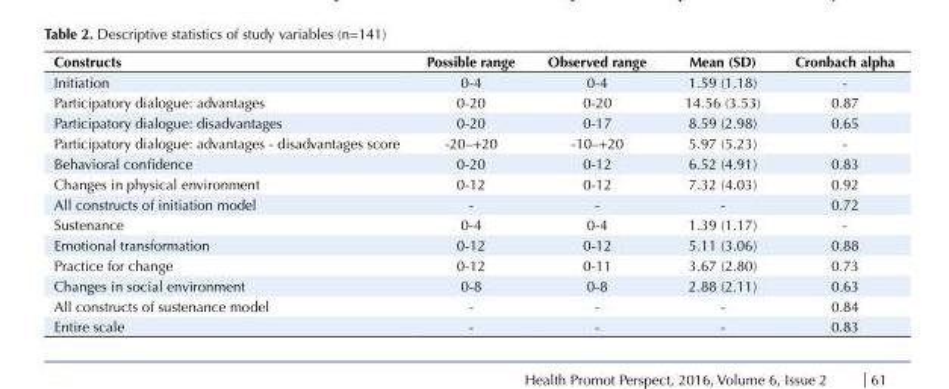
<table><tbody><tr><td>Constructs</td><td>Possible range</td><td>Observed range</td><td>Mean (SD)</td><td>Cronbach alpha</td></tr><tr><td>Initiation</td><td>0-4</td><td>0-4</td><td>1.59 (1.18)</td><td>-</td></tr><tr><td>Participatory dialogue: advantages</td><td>0-20</td><td>0-20</td><td>14.56 (3.53)</td><td>0.87</td></tr><tr><td>Participatory dialogue: disadvantages</td><td>0-20</td><td>0-17</td><td>8.59 (2.98)</td><td>0.65</td></tr><tr><td>Participatory dialogue: advantages - disadvantages score</td><td>-20–+20</td><td>-10–+20</td><td>5.97 (5.23)</td><td>-</td></tr><tr><td>Behavioral confidence</td><td>0-20</td><td>0-12</td><td>6.52 (4.91)</td><td>0.83</td></tr><tr><td>Changes in physical environment</td><td>0-12</td><td>0-12</td><td>7.32 (4.03)</td><td>0.92</td></tr><tr><td>All constructs of initiation model</td><td>-</td><td>-</td><td>-</td><td>0.72</td></tr><tr><td>Sustenance</td><td>0-4</td><td>0-4</td><td>1.39 (1.17)</td><td>-</td></tr><tr><td>Emotional transformation</td><td>0-12</td><td>0-12</td><td>5.11 (3.06)</td><td>0.88</td></tr><tr><td>Practice for change</td><td>0-12</td><td>0-11</td><td>3.67 (2.80)</td><td>0.73</td></tr><tr><td>Changes in social environment</td><td>0-8</td><td>0-8</td><td>2.88 (2.11)</td><td>0.63</td></tr><tr><td>All constructs of sustenance model</td><td>-</td><td>-</td><td>-</td><td>0.84</td></tr><tr><td>Entire scale</td><td>-</td><td>-</td><td>-</td><td>0.83</td></tr></tbody></table>